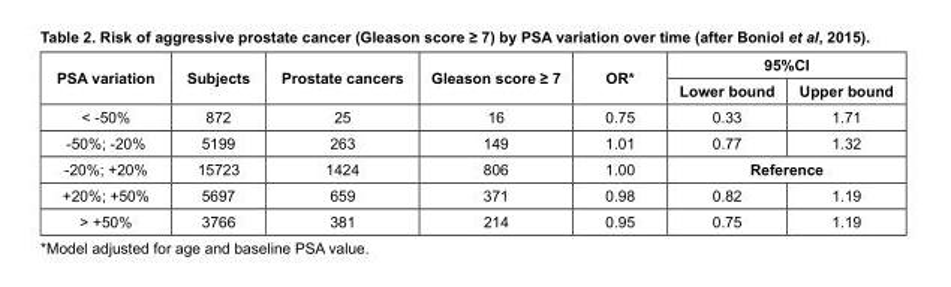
<table><thead><tr><td rowspan="2">PSA variation</td><td rowspan="2">Subjects</td><td rowspan="2">Prostate cancers</td><td rowspan="2">Gleason score ≥ 7</td><td rowspan="2">OR*</td><td colspan="2">95%CI</td></tr><tr><td>Lower bound</td><td>Upper bound</td></tr></thead><tbody><tr><td>&lt; -50%</td><td>872</td><td>25</td><td>16</td><td>0.75</td><td>0.33</td><td>1.71</td></tr><tr><td>-50%; -20%</td><td>5199</td><td>263</td><td>149</td><td>1.01</td><td>0.77</td><td>1.32</td></tr><tr><td>-20%; +20%</td><td>15723</td><td>1424</td><td>806</td><td>1.00</td><td colspan="2">Reference</td></tr><tr><td>+20%; +50%</td><td>5697</td><td>659</td><td>371</td><td>0.98</td><td>0.82</td><td>1.19</td></tr><tr><td>&gt; +50%</td><td>3766</td><td>381</td><td>214</td><td>0.95</td><td>0.75</td><td>1.19</td></tr></tbody></table>